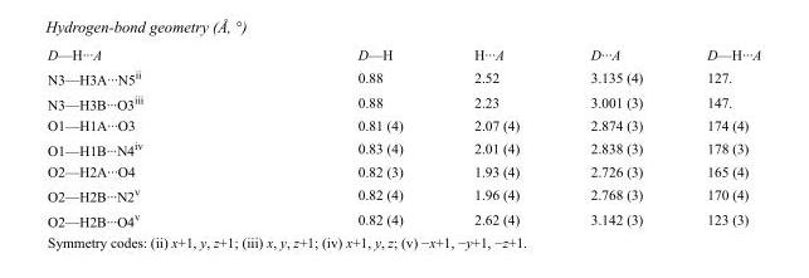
<table><tbody><tr><td>D—H···A</td><td>D—H</td><td>H···A</td><td>D···A</td><td>D—H···A</td></tr><tr><td>N3—H3A···N5<sup>ii</sup></td><td>0.88</td><td>2.52</td><td>3.135 (4)</td><td>127.</td></tr><tr><td>N3—H3B···O3<sup>iii</sup></td><td>0.88</td><td>2.23</td><td>3.001 (3)</td><td>147.</td></tr><tr><td>O1—H1A···O3</td><td>0.81 (4)</td><td>2.07 (4)</td><td>2.874 (3)</td><td>174 (4)</td></tr><tr><td>O1—H1B···N4<sup>iv</sup></td><td>0.83 (4)</td><td>2.01 (4)</td><td>2.838 (3)</td><td>178 (3)</td></tr><tr><td>O2—H2A···O4</td><td>0.82 (3)</td><td>1.93 (4)</td><td>2.726 (3)</td><td>165 (4)</td></tr><tr><td>O2—H2B···N2<sup>v</sup></td><td>0.82 (4)</td><td>1.96 (4)</td><td>2.768 (3)</td><td>170 (4)</td></tr><tr><td>O2—H2B···O4<sup>v</sup></td><td>0.82 (4)</td><td>2.62 (4)</td><td>3.142 (3)</td><td>123 (3)</td></tr></tbody></table>